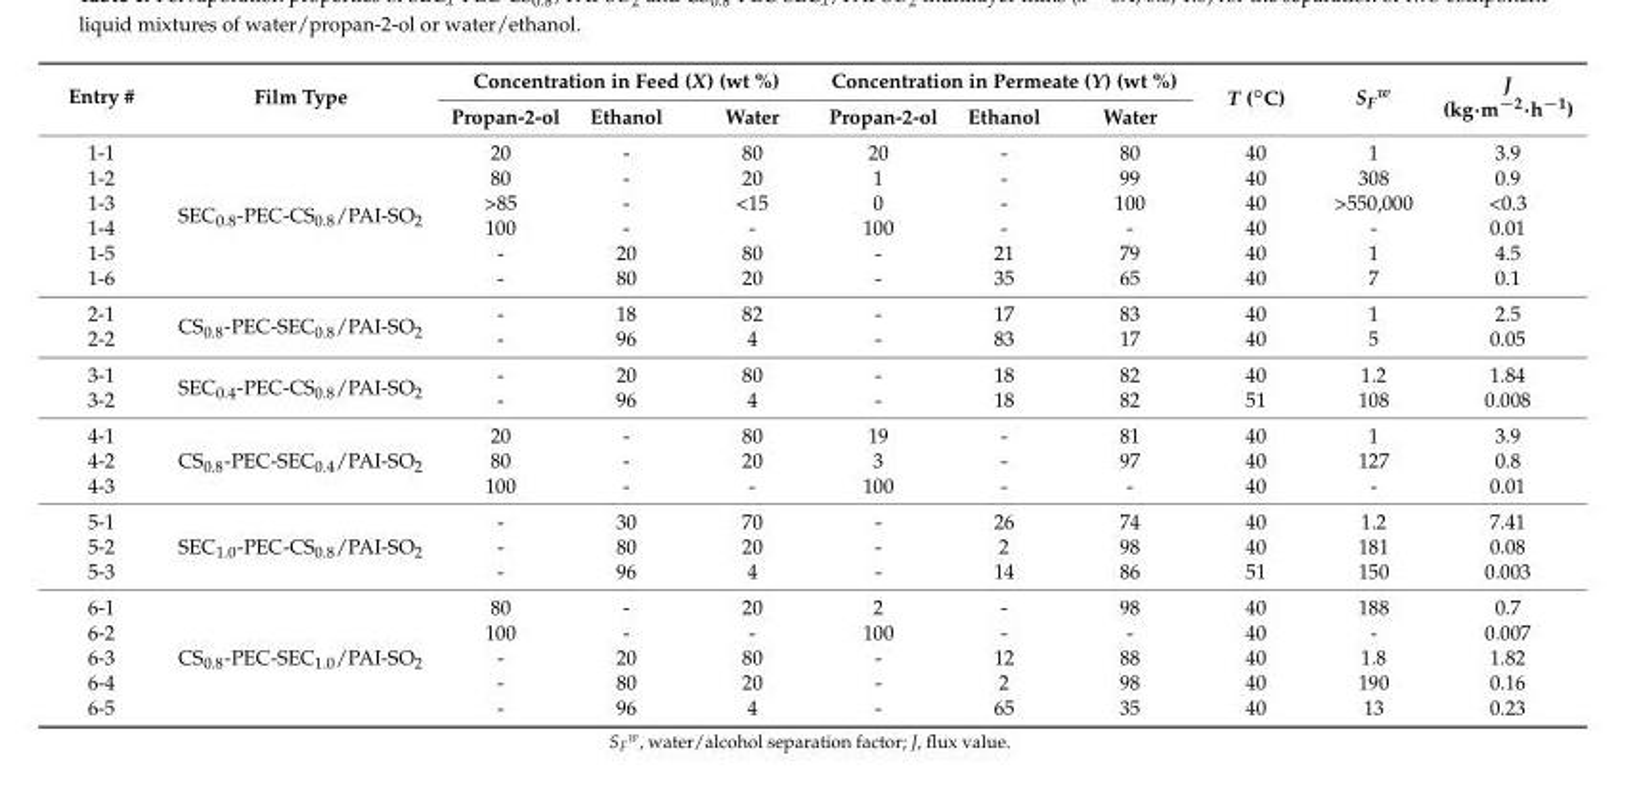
<table><thead><tr><td rowspan="2">Entry #</td><td rowspan="2">Film Type</td><td colspan="3">Concentration in Feed (X) (wt %)</td><td colspan="3">Concentration in Permeate (Y) (wt %)</td><td rowspan="2">T (◦C)</td><td rowspan="2">S<sub>F</sub><sup>w</sup></td><td rowspan="2">J (kg·m<sup>−2</sup>·h<sup>−1</sup>)</td></tr><tr><td>Propan-2-ol</td><td>Ethanol</td><td>Water</td><td>Propan-2-ol</td><td>Ethanol</td><td>Water</td></tr></thead><tbody><tr><td>1-1</td><td rowspan="6">SEC<sub>0.8</sub>-PEC-CS<sub>0.8</sub>/PAI-SO<sub>2</sub></td><td>20</td><td>-</td><td>80</td><td>20</td><td>-</td><td>80</td><td>40</td><td>1</td><td>3.9</td></tr><tr><td>1-2</td><td>80</td><td>-</td><td>20</td><td>1</td><td>-</td><td>99</td><td>40</td><td>308</td><td>0.9</td></tr><tr><td>1-3</td><td>&gt;85</td><td>-</td><td>&lt;15</td><td>0</td><td>-</td><td>100</td><td>40</td><td>&gt;550,000</td><td>&lt;0.3</td></tr><tr><td>1-4</td><td>100</td><td>-</td><td>-</td><td>100</td><td>-</td><td>-</td><td>40</td><td>-</td><td>0.01</td></tr><tr><td>1-5</td><td>-</td><td>20</td><td>80</td><td>-</td><td>21</td><td>79</td><td>40</td><td>1</td><td>4.5</td></tr><tr><td>1-6</td><td>-</td><td>80</td><td>20</td><td>-</td><td>35</td><td>65</td><td>40</td><td>7</td><td>0.1</td></tr><tr><td>2-1</td><td rowspan="2">CS<sub>0.8</sub>-PEC-SEC<sub>0.8</sub>/PAI-SO<sub>2</sub></td><td>-</td><td>18</td><td>82</td><td>-</td><td>17</td><td>83</td><td>40</td><td>1</td><td>2.5</td></tr><tr><td>2-2</td><td>-</td><td>96</td><td>4</td><td>-</td><td>83</td><td>17</td><td>40</td><td>5</td><td>0.05</td></tr><tr><td>3-1</td><td rowspan="2">SEC<sub>0.4</sub>-PEC-CS<sub>0.8</sub>/PAI-SO<sub>2</sub></td><td>-</td><td>20</td><td>80</td><td>-</td><td>18</td><td>82</td><td>40</td><td>1.2</td><td>1.84</td></tr><tr><td>3-2</td><td>-</td><td>96</td><td>4</td><td>-</td><td>18</td><td>82</td><td>51</td><td>108</td><td>0.008</td></tr><tr><td>4-1</td><td rowspan="3">CS<sub>0.8</sub>-PEC-SEC<sub>0.4</sub>/PAI-SO<sub>2</sub></td><td>20</td><td>-</td><td>80</td><td>19</td><td>-</td><td>81</td><td>40</td><td>1</td><td>3.9</td></tr><tr><td>4-2</td><td>80</td><td>-</td><td>20</td><td>3</td><td>-</td><td>97</td><td>40</td><td>127</td><td>0.8</td></tr><tr><td>4-3</td><td>100</td><td>-</td><td>-</td><td>100</td><td>-</td><td>-</td><td>40</td><td>-</td><td>0.01</td></tr><tr><td>5-1</td><td rowspan="3">SEC<sub>1.0</sub>-PEC-CS<sub>0.8</sub>/PAI-SO<sub>2</sub></td><td>-</td><td>30</td><td>70</td><td>-</td><td>26</td><td>74</td><td>40</td><td>1.2</td><td>7.41</td></tr><tr><td>5-2</td><td>-</td><td>80</td><td>20</td><td>-</td><td>2</td><td>98</td><td>40</td><td>181</td><td>0.08</td></tr><tr><td>5-3</td><td>-</td><td>96</td><td>4</td><td>-</td><td>14</td><td>86</td><td>51</td><td>150</td><td>0.003</td></tr><tr><td>6-1</td><td rowspan="5">CS<sub>0.8</sub>-PEC-SEC<sub>1.0</sub>/PAI-SO<sub>2</sub></td><td>80</td><td>-</td><td>20</td><td>2</td><td>-</td><td>98</td><td>40</td><td>188</td><td>0.7</td></tr><tr><td>6-2</td><td>100</td><td>-</td><td>-</td><td>100</td><td>-</td><td>-</td><td>40</td><td>-</td><td>0.007</td></tr><tr><td>6-3</td><td>-</td><td>20</td><td>80</td><td>-</td><td>12</td><td>88</td><td>40</td><td>1.8</td><td>1.82</td></tr><tr><td>6-4</td><td>-</td><td>80</td><td>20</td><td>-</td><td>2</td><td>98</td><td>40</td><td>190</td><td>0.16</td></tr><tr><td>6-5</td><td>-</td><td>96</td><td>4</td><td>-</td><td>65</td><td>35</td><td>40</td><td>13</td><td>0.23</td></tr></tbody></table>